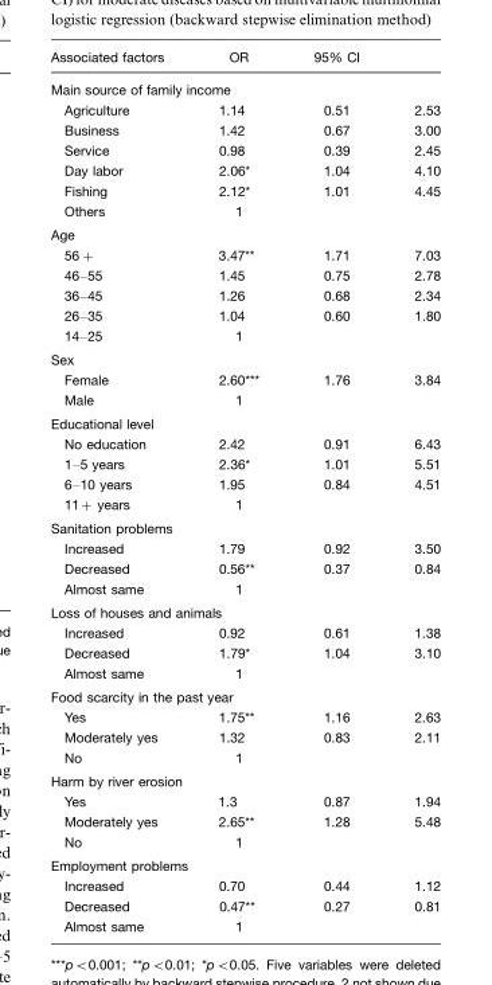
<table><thead><tr><td>Associated factors</td><td>OR</td><td>95% CI</td><td></td></tr></thead><tbody><tr><td colspan="4">Main source of family income</td></tr><tr><td>Agriculture</td><td>1.14</td><td>0.51</td><td>2.53</td></tr><tr><td>Business</td><td>1.42</td><td>0.67</td><td>3.00</td></tr><tr><td>Service</td><td>0.98</td><td>0.39</td><td>2.45</td></tr><tr><td>Day labor</td><td>2.06*</td><td>1.04</td><td>4.10</td></tr><tr><td>Fishing</td><td>2.12*</td><td>1.01</td><td>4.45</td></tr><tr><td>Others</td><td>1</td><td></td><td></td></tr><tr><td colspan="4">Age</td></tr><tr><td>56+</td><td>3.47**</td><td>1.71</td><td>7.03</td></tr><tr><td>46–55</td><td>1.45</td><td>0.75</td><td>2.78</td></tr><tr><td>36–45</td><td>1.26</td><td>0.68</td><td>2.34</td></tr><tr><td>26–35</td><td>1.04</td><td>0.60</td><td>1.80</td></tr><tr><td>14–25</td><td>1</td><td></td><td></td></tr><tr><td colspan="4">Sex</td></tr><tr><td>Female</td><td>2.60***</td><td>1.76</td><td>3.84</td></tr><tr><td>Male</td><td>1</td><td></td><td></td></tr><tr><td colspan="4">Educational level</td></tr><tr><td>No education</td><td>2.42</td><td>0.91</td><td>6.43</td></tr><tr><td>1–5 years</td><td>2.36*</td><td>1.01</td><td>5.51</td></tr><tr><td>6–10 years</td><td>1.95</td><td>0.84</td><td>4.51</td></tr><tr><td>11+ years</td><td>1</td><td></td><td></td></tr><tr><td colspan="4">Sanitation problems</td></tr><tr><td>Increased</td><td>1.79</td><td>0.92</td><td>3.50</td></tr><tr><td>Decreased</td><td>0.56**</td><td>0.37</td><td>0.84</td></tr><tr><td>Almost same</td><td>1</td><td></td><td></td></tr><tr><td colspan="4">Loss of houses and animals</td></tr><tr><td>Increased</td><td>0.92</td><td>0.61</td><td>1.38</td></tr><tr><td>Decreased</td><td>1.79*</td><td>1.04</td><td>3.10</td></tr><tr><td>Almost same</td><td>1</td><td></td><td></td></tr><tr><td colspan="4">Food scarcity in the past year</td></tr><tr><td>Yes</td><td>1.75**</td><td>1.16</td><td>2.63</td></tr><tr><td>Moderately yes</td><td>1.32</td><td>0.83</td><td>2.11</td></tr><tr><td>No</td><td>1</td><td></td><td></td></tr><tr><td colspan="4">Harm by river erosion</td></tr><tr><td>Yes</td><td>1.3</td><td>0.87</td><td>1.94</td></tr><tr><td>Moderately yes</td><td>2.65**</td><td>1.28</td><td>5.48</td></tr><tr><td>No</td><td>1</td><td></td><td></td></tr><tr><td colspan="4">Employment problems</td></tr><tr><td>Increased</td><td>0.70</td><td>0.44</td><td>1.12</td></tr><tr><td>Decreased</td><td>0.47**</td><td>0.27</td><td>0.81</td></tr><tr><td>Almost same</td><td>1</td><td></td><td></td></tr></tbody></table>